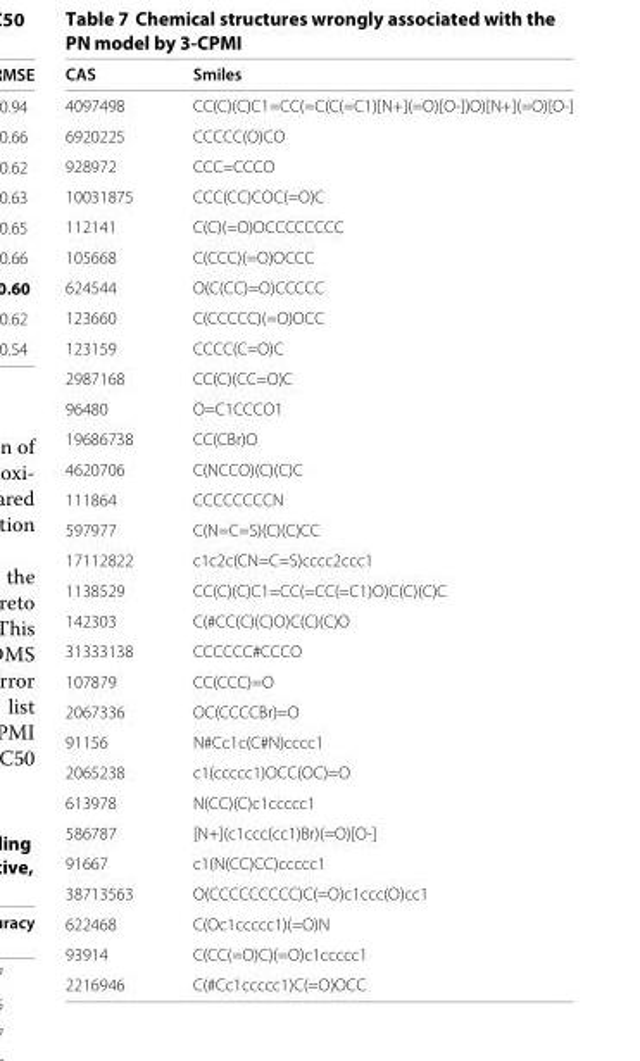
<table><thead><tr><td>CAS</td><td>Smiles</td></tr></thead><tbody><tr><td>4097498</td><td>CC(C)(C)C1=CC(=C(C(=C1)[N+](=O)[O-])O)[N+](=O)[O-]</td></tr><tr><td>6920225</td><td>CCCCC(O)CO</td></tr><tr><td>928972</td><td>CCC=CCCO</td></tr><tr><td>10031875</td><td>CCC(CC)COC(=O)C</td></tr><tr><td>112141</td><td>C(C)(=O)OCCCCCCCC</td></tr><tr><td>105668</td><td>C(CCC)(=O)OCCC</td></tr><tr><td>624544</td><td>O(C(CC)=O)CCCCC</td></tr><tr><td>123660</td><td>C(CCCCC)(=O)OCC</td></tr><tr><td>123159</td><td>CCCC(C=O)C</td></tr><tr><td>2987168</td><td>CC(C)(CC=O)C</td></tr><tr><td>96480</td><td>O=C1CCCO1</td></tr><tr><td>19686738</td><td>CC(CBr)O</td></tr><tr><td>4620706</td><td>C(NCCO)(C)(C)C</td></tr><tr><td>111864</td><td>CCCCCCCCN</td></tr><tr><td>597977</td><td>C(N=C=S)(C)(C)CC</td></tr><tr><td>17112822</td><td>c1c2c(CN=C=S)cccc2ccc1</td></tr><tr><td>1138529</td><td>CC(C)(C)C1=CC(=CC(=C1)O)C(C)(C)C</td></tr><tr><td>142303</td><td>C(#CC(C)(C)O)C(C)(C)O</td></tr><tr><td>31333138</td><td>CCCCCC#CCCO</td></tr><tr><td>107879</td><td>CC(CCC)=O</td></tr><tr><td>2067336</td><td>OC(CCCCBr)=O</td></tr><tr><td>91156</td><td>N#Cc1c(C#N)cccc1</td></tr><tr><td>2065238</td><td>c1(ccccc1)OCC(OC)=O</td></tr><tr><td>613978</td><td>N(CC)(C)c1ccccc1</td></tr><tr><td>586787</td><td>[N+](c1ccc(cc1)Br)(=O)[O-]</td></tr><tr><td>91667</td><td>c1(N(CC)CC)ccccc1</td></tr><tr><td>38713563</td><td>O(CCCCCCCCC)C(=O)c1ccc(O)cc1</td></tr><tr><td>622468</td><td>C(Oc1ccccc1)(=O)N</td></tr><tr><td>93914</td><td>C(CC(=O)C)(=O)c1ccccc1</td></tr><tr><td>2216946</td><td>C(#Cc1ccccc1)C(=O)OCC</td></tr></tbody></table>